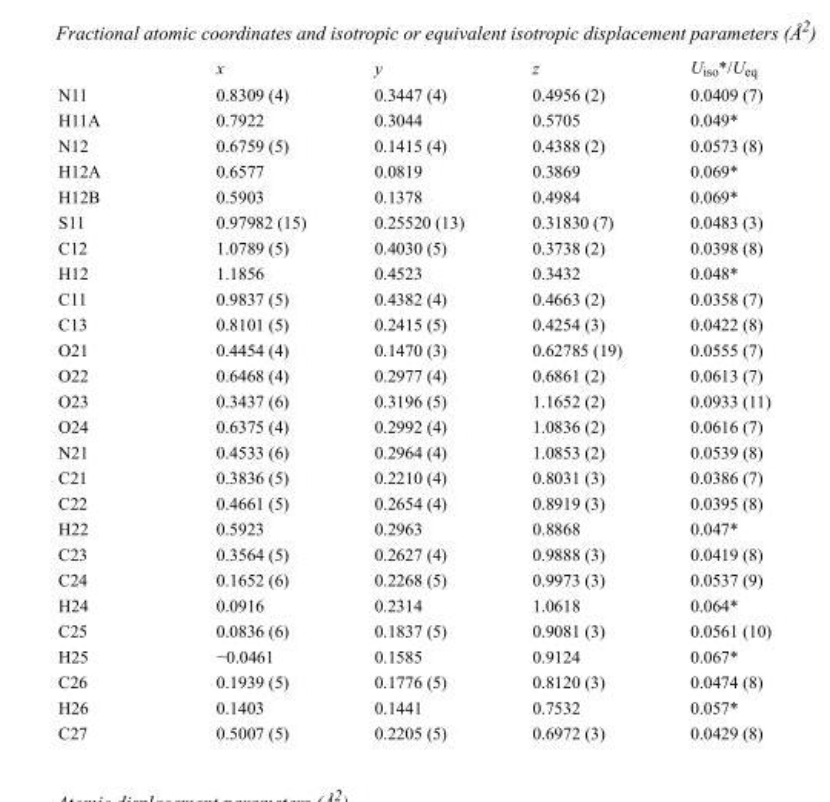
<table><thead><tr><td></td><td>x</td><td>y</td><td>z</td><td>U<sub>iso</sub>*/U<sub>eq</sub></td></tr></thead><tbody><tr><td>N11</td><td>0.8309 (4)</td><td>0.3447 (4)</td><td>0.4956 (2)</td><td>0.0409 (7)</td></tr><tr><td>H11A</td><td>0.7922</td><td>0.3044</td><td>0.5705</td><td>0.049*</td></tr><tr><td>N12</td><td>0.6759 (5)</td><td>0.1415 (4)</td><td>0.4388 (2)</td><td>0.0573 (8)</td></tr><tr><td>H12A</td><td>0.6577</td><td>0.0819</td><td>0.3869</td><td>0.069*</td></tr><tr><td>H12B</td><td>0.5903</td><td>0.1378</td><td>0.4984</td><td>0.069*</td></tr><tr><td>S11</td><td>0.97982 (15)</td><td>0.25520 (13)</td><td>0.31830 (7)</td><td>0.0483 (3)</td></tr><tr><td>C12</td><td>1.0789 (5)</td><td>0.4030 (5)</td><td>0.3738 (2)</td><td>0.0398 (8)</td></tr><tr><td>H12</td><td>1.1856</td><td>0.4523</td><td>0.3432</td><td>0.048*</td></tr><tr><td>C11</td><td>0.9837 (5)</td><td>0.4382 (4)</td><td>0.4663 (2)</td><td>0.0358 (7)</td></tr><tr><td>C13</td><td>0.8101 (5)</td><td>0.2415 (5)</td><td>0.4254 (3)</td><td>0.0422 (8)</td></tr><tr><td>O21</td><td>0.4454 (4)</td><td>0.1470 (3)</td><td>0.62785 (19)</td><td>0.0555 (7)</td></tr><tr><td>O22</td><td>0.6468 (4)</td><td>0.2977 (4)</td><td>0.6861 (2)</td><td>0.0613 (7)</td></tr><tr><td>O23</td><td>0.3437 (6)</td><td>0.3196 (5)</td><td>1.1652 (2)</td><td>0.0933 (11)</td></tr><tr><td>O24</td><td>0.6375 (4)</td><td>0.2992 (4)</td><td>1.0836 (2)</td><td>0.0616 (7)</td></tr><tr><td>N21</td><td>0.4533 (6)</td><td>0.2964 (4)</td><td>1.0853 (2)</td><td>0.0539 (8)</td></tr><tr><td>C21</td><td>0.3836 (5)</td><td>0.2210 (4)</td><td>0.8031 (3)</td><td>0.0386 (7)</td></tr><tr><td>C22</td><td>0.4661 (5)</td><td>0.2654 (4)</td><td>0.8919 (3)</td><td>0.0395 (8)</td></tr><tr><td>H22</td><td>0.5923</td><td>0.2963</td><td>0.8868</td><td>0.047*</td></tr><tr><td>C23</td><td>0.3564 (5)</td><td>0.2627 (4)</td><td>0.9888 (3)</td><td>0.0419 (8)</td></tr><tr><td>C24</td><td>0.1652 (6)</td><td>0.2268 (5)</td><td>0.9973 (3)</td><td>0.0537 (9)</td></tr><tr><td>H24</td><td>0.0916</td><td>0.2314</td><td>1.0618</td><td>0.064*</td></tr><tr><td>C25</td><td>0.0836 (6)</td><td>0.1837 (5)</td><td>0.9081 (3)</td><td>0.0561 (10)</td></tr><tr><td>H25</td><td>−0.0461</td><td>0.1585</td><td>0.9124</td><td>0.067*</td></tr><tr><td>C26</td><td>0.1939 (5)</td><td>0.1776 (5)</td><td>0.8120 (3)</td><td>0.0474 (8)</td></tr><tr><td>H26</td><td>0.1403</td><td>0.1441</td><td>0.7532</td><td>0.057*</td></tr><tr><td>C27</td><td>0.5007 (5)</td><td>0.2205 (5)</td><td>0.6972 (3)</td><td>0.0429 (8)</td></tr></tbody></table>